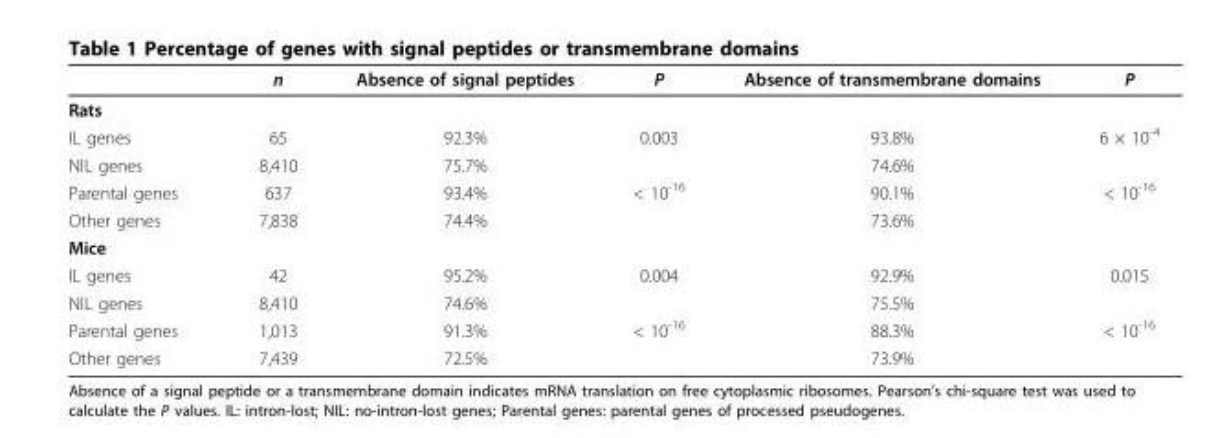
<table><thead><tr><td></td><td>n</td><td>Absence of signal peptides</td><td>P</td><td>Absence of transmembrane domains</td><td>P</td></tr></thead><tbody><tr><td colspan="6">Rats</td></tr><tr><td>IL genes</td><td>65</td><td>92.3%</td><td>0.003</td><td>93.8%</td><td>6 × 10<sup>-4</sup></td></tr><tr><td>NIL genes</td><td>8,410</td><td>75.7%</td><td></td><td>74.6%</td><td></td></tr><tr><td>Parental genes</td><td>637</td><td>93.4%</td><td>&lt; 10<sup>-16</sup></td><td>90.1%</td><td>&lt; 10<sup>-16</sup></td></tr><tr><td>Other genes</td><td>7,838</td><td>74.4%</td><td></td><td>73.6%</td><td></td></tr><tr><td colspan="6">Mice</td></tr><tr><td>IL genes</td><td>42</td><td>95.2%</td><td>0.004</td><td>92.9%</td><td>0.015</td></tr><tr><td>NIL genes</td><td>8,410</td><td>74.6%</td><td></td><td>75.5%</td><td></td></tr><tr><td>Parental genes</td><td>1,013</td><td>91.3%</td><td>&lt; 10<sup>-16</sup></td><td>88.3%</td><td>&lt; 10<sup>-16</sup></td></tr><tr><td>Other genes</td><td>7,439</td><td>72.5%</td><td></td><td>73.9%</td><td></td></tr></tbody></table>